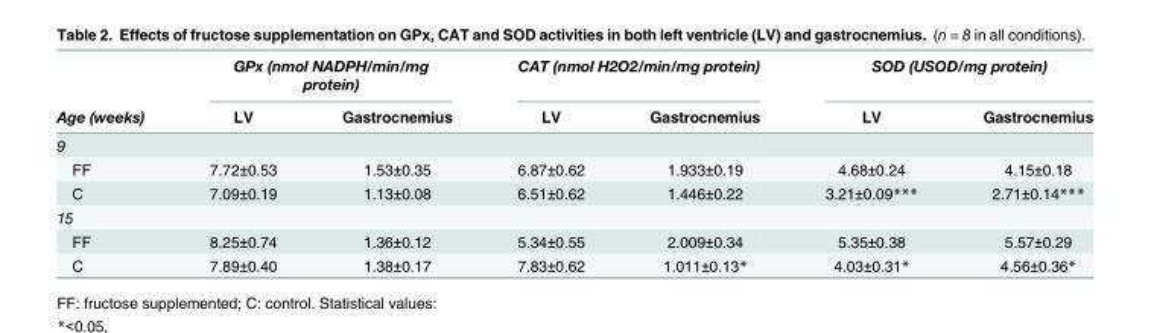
<table><thead><tr><td rowspan="2">Age (weeks)</td><td colspan="2">GPx (nmol NADPH/min/mg protein)</td><td colspan="2">CAT (nmol H2O2/min/mg protein)</td><td colspan="2">SOD (USOD/mg protein)</td></tr><tr><td>LV</td><td>Gastrocnemius</td><td>LV</td><td>Gastrocnemius</td><td>LV</td><td>Gastrocnemius</td></tr></thead><tbody><tr><td colspan="7">9</td></tr><tr><td>FF</td><td>7.72±0.53</td><td>1.53±0.35</td><td>6.87±0.62</td><td>1.933±0.19</td><td>4.68±0.24</td><td>4.15±0.18</td></tr><tr><td>C</td><td>7.09±0.19</td><td>1.13±0.08</td><td>6.51±0.62</td><td>1.446±0.22</td><td>3.21±0.09***</td><td>2.71±0.14***</td></tr><tr><td colspan="7">15</td></tr><tr><td>FF</td><td>8.25±0.74</td><td>1.36±0.12</td><td>5.34±0.55</td><td>2.009±0.34</td><td>5.35±0.38</td><td>5.57±0.29</td></tr><tr><td>C</td><td>7.89±0.40</td><td>1.38±0.17</td><td>7.83±0.62</td><td>1.011±0.13*</td><td>4.03±0.31*</td><td>4.56±0.36*</td></tr></tbody></table>